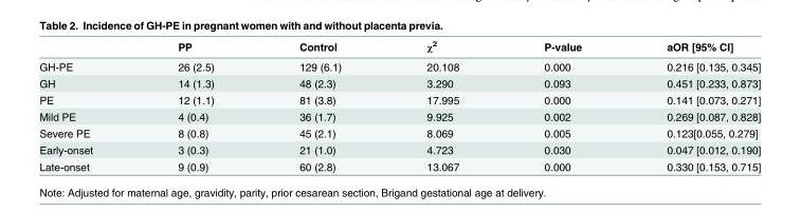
<table><thead><tr><td></td><td>PP</td><td>Control</td><td>χ<sup>2</sup></td><td>P-value</td><td>aOR [95% CI]</td></tr></thead><tbody><tr><td>GH-PE</td><td>26 (2.5)</td><td>129 (6.1)</td><td>20.108</td><td>0.000</td><td>0.216 [0.135, 0.345]</td></tr><tr><td>GH</td><td>14 (1.3)</td><td>48 (2.3)</td><td>3.290</td><td>0.093</td><td>0.451 [0.233, 0.873]</td></tr><tr><td>PE</td><td>12 (1.1)</td><td>81 (3.8)</td><td>17.995</td><td>0.000</td><td>0.141 [0.073, 0.271]</td></tr><tr><td>Mild PE</td><td>4 (0.4)</td><td>36 (1.7)</td><td>9.925</td><td>0.002</td><td>0.269 [0.087, 0.828]</td></tr><tr><td>Severe PE</td><td>8 (0.8)</td><td>45 (2.1)</td><td>8.069</td><td>0.005</td><td>0.123[0.055, 0.279]</td></tr><tr><td>Early-onset</td><td>3 (0.3)</td><td>21 (1.0)</td><td>4.723</td><td>0.030</td><td>0.047 [0.012, 0.190]</td></tr><tr><td>Late-onset</td><td>9 (0.9)</td><td>60 (2.8)</td><td>13.067</td><td>0.000</td><td>0.330 [0.153, 0.715]</td></tr></tbody></table>